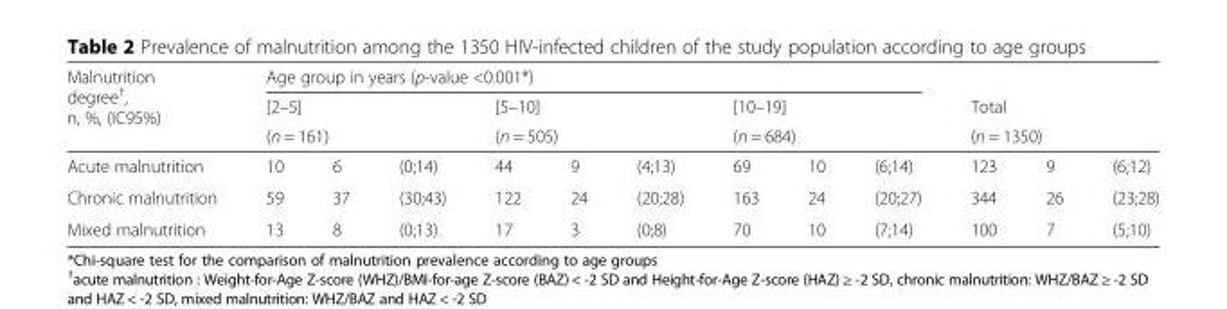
<table><thead><tr><td rowspan="4">Malnutrition degree<sup>†</sup>, n, %, (IC95%) Acute malnutrition</td><td colspan="9">Age group in years (p-value &lt;0.001*)</td><td></td><td></td><td></td></tr><tr><td rowspan="2" colspan="3">[2–5] (n = 161)</td><td rowspan="2" colspan="3">[5–10] (n = 505)</td><td rowspan="2" colspan="3">[10–19] (n = 684)</td><td rowspan="2" colspan="3">Total (n = 1350)</td></tr><tr></tr><tr><td>10</td><td>6</td><td>(0;14)</td><td>44</td><td>9</td><td>(4;13)</td><td>69</td><td>10</td><td>(6;14)</td><td>123</td><td>9</td><td>(6;12)</td></tr></thead><tbody><tr><td>Chronic malnutrition</td><td>59</td><td>37</td><td>(30;43)</td><td>122</td><td>24</td><td>(20;28)</td><td>163</td><td>24</td><td>(20;27)</td><td>344</td><td>26</td><td>(23;28)</td></tr><tr><td>Mixed malnutrition</td><td>13</td><td>8</td><td>(0;13)</td><td>17</td><td>3</td><td>(0;8)</td><td>70</td><td>10</td><td>(7;14)</td><td>100</td><td>7</td><td>(5;10)</td></tr></tbody></table>